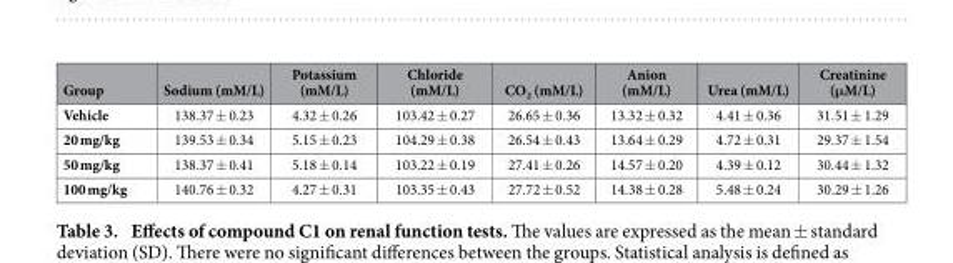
<table><thead><tr><td>Group</td><td>Sodium (mM/L)</td><td>Potassium (mM/L)</td><td>Chloride (mM/L)</td><td>CO<sub>2</sub> (mM/L)</td><td>Anion (mM/L)</td><td>Urea (mM/L)</td><td>Creatinine (μM/L)</td></tr></thead><tbody><tr><td>Vehicle</td><td>138.37 ± 0.23</td><td>4.32 ± 0.26</td><td>103.42 ± 0.27</td><td>26.65 ± 0.36</td><td>13.32 ± 0.32</td><td>4.41 ± 0.36</td><td>31.51 ± 1.29</td></tr><tr><td>20 mg/kg</td><td>139.53 ± 0.34</td><td>5.15 ± 0.23</td><td>104.29 ± 0.38</td><td>26.54 ± 0.43</td><td>13.64 ± 0.29</td><td>4.72 ± 0.31</td><td>29.37 ± 1.54</td></tr><tr><td>50 mg/kg</td><td>138.37 ± 0.41</td><td>5.18 ± 0.14</td><td>103.22 ± 0.19</td><td>27.41 ± 0.26</td><td>14.57 ± 0.20</td><td>4.39 ± 0.12</td><td>30.44 ± 1.32</td></tr><tr><td>100 mg/kg</td><td>140.76 ± 0.32</td><td>4.27 ± 0.31</td><td>103.35 ± 0.43</td><td>27.72 ± 0.52</td><td>14.38 ± 0.28</td><td>5.48 ± 0.24</td><td>30.29 ± 1.26</td></tr></tbody></table>